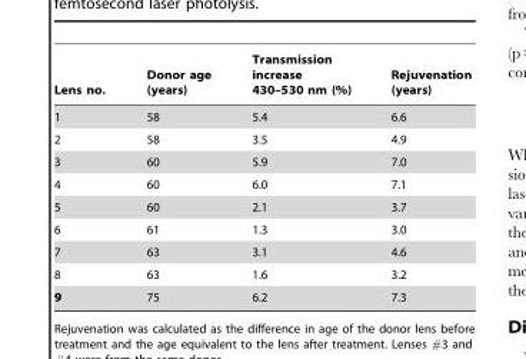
<table><thead><tr><td>Lens no.</td><td>Donor age (years)</td><td>Transmission increase 430–530 nm (%)</td><td>Rejuvenation (years)</td></tr></thead><tbody><tr><td>1</td><td>58</td><td>5.4</td><td>6.6</td></tr><tr><td>2</td><td>58</td><td>3.5</td><td>4.9</td></tr><tr><td>3</td><td>60</td><td>5.9</td><td>7.0</td></tr><tr><td>4</td><td>60</td><td>6.0</td><td>7.1</td></tr><tr><td>5</td><td>60</td><td>2.1</td><td>3.7</td></tr><tr><td>6</td><td>61</td><td>1.3</td><td>3.0</td></tr><tr><td>7</td><td>63</td><td>3.1</td><td>4.6</td></tr><tr><td>8</td><td>63</td><td>1.6</td><td>3.2</td></tr><tr><td>9</td><td>75</td><td>6.2</td><td>7.3</td></tr></tbody></table>